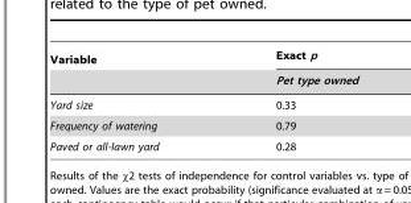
<table><thead><tr><td rowspan="2">Variable</td><td rowspan="2">Exact p Pet type owned</td></tr><tr></tr></thead><tbody><tr><td>Yard size</td><td>0.33</td></tr><tr><td>Frequency of watering</td><td>0.79</td></tr><tr><td>Paved or all-lawn yard</td><td>0.28</td></tr></tbody></table>